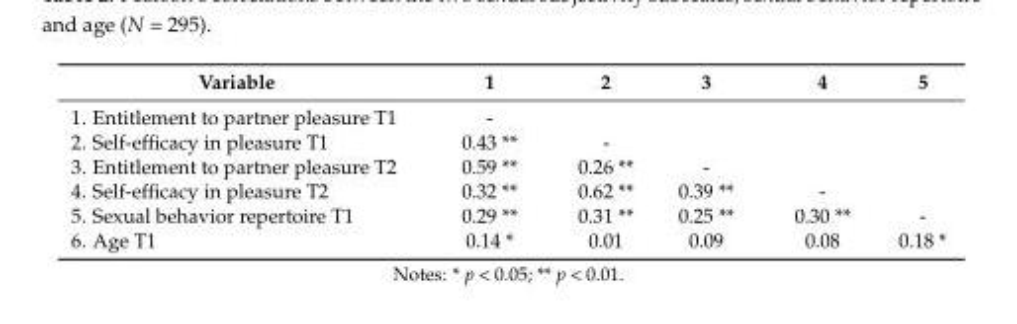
<table><thead><tr><td>Variable</td><td>1</td><td>2</td><td>3</td><td>4</td><td>5</td></tr></thead><tbody><tr><td>1. Entitlement to partner pleasure T1</td><td>-</td><td></td><td></td><td></td><td></td></tr><tr><td>2. Self-efficacy in pleasure T1</td><td>0.43 **</td><td>-</td><td></td><td></td><td></td></tr><tr><td>3. Entitlement to partner pleasure T2</td><td>0.59 **</td><td>0.26 **</td><td>-</td><td></td><td></td></tr><tr><td>4. Self-efficacy in pleasure T2</td><td>0.32 **</td><td>0.62 **</td><td>0.39 **</td><td>-</td><td></td></tr><tr><td>5. Sexual behavior repertoire T1</td><td>0.29 **</td><td>0.31 **</td><td>0.25 **</td><td>0.30 **</td><td>-</td></tr><tr><td>6. Age T1</td><td>0.14 *</td><td>0.01</td><td>0.09</td><td>0.08</td><td>0.18 *</td></tr></tbody></table>